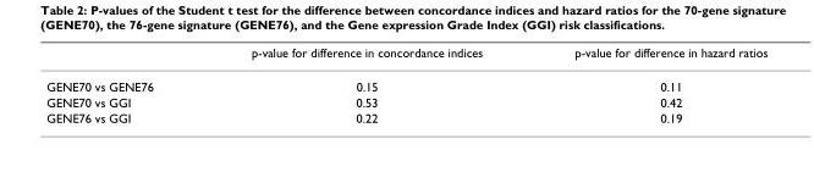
<table><thead><tr><td></td><td>p-value for difference in concordance indices</td><td>p-value for difference in hazard ratios</td></tr></thead><tbody><tr><td>GENE70 vs GENE76</td><td>0.15</td><td>0.11</td></tr><tr><td>GENE70 vs GGI</td><td>0.53</td><td>0.42</td></tr><tr><td>GENE76 vs GGI</td><td>0.22</td><td>0.19</td></tr></tbody></table>